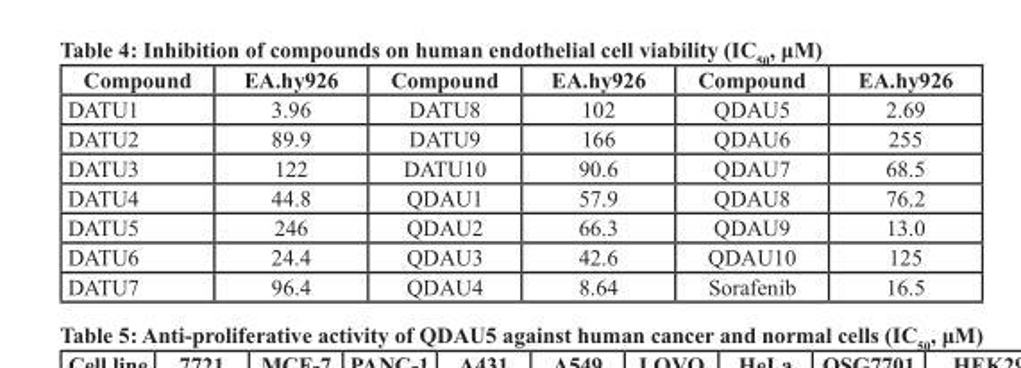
<table><thead><tr><td>Compound</td><td>EA.hy926</td><td>Compound</td><td>EA.hy926</td><td>Compound</td><td>EA.hy926</td></tr></thead><tbody><tr><td>DATU1</td><td>3.96</td><td>DATU8</td><td>102</td><td>QDAU5</td><td>2.69</td></tr><tr><td>DATU2</td><td>89.9</td><td>DATU9</td><td>166</td><td>QDAU6</td><td>255</td></tr><tr><td>DATU3</td><td>122</td><td>DATU10</td><td>90.6</td><td>QDAU7</td><td>68.5</td></tr><tr><td>DATU4</td><td>44.8</td><td>QDAU1</td><td>57.9</td><td>QDAU8</td><td>76.2</td></tr><tr><td>DATU5</td><td>246</td><td>QDAU2</td><td>66.3</td><td>QDAU9</td><td>13.0</td></tr><tr><td>DATU6</td><td>24.4</td><td>QDAU3</td><td>42.6</td><td>QDAU10</td><td>125</td></tr><tr><td>DATU7</td><td>96.4</td><td>QDAU4</td><td>8.64</td><td>Sorafenib</td><td>16.5</td></tr></tbody></table>